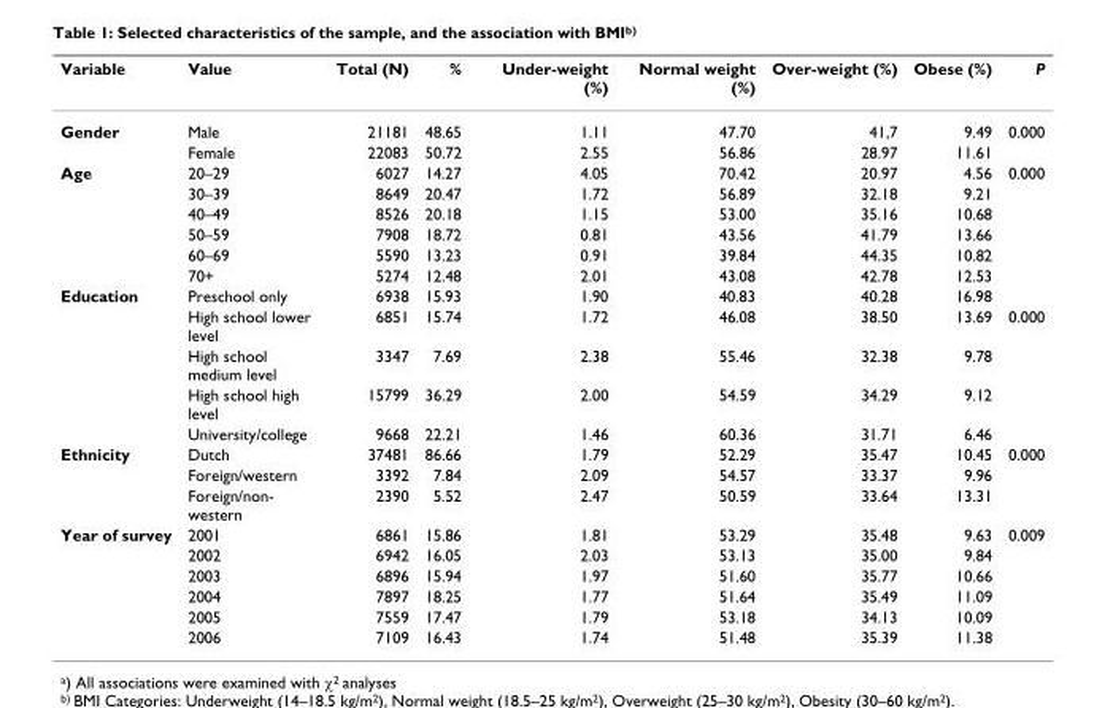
<table><thead><tr><td>Variable</td><td>Value</td><td>Total (N)</td><td>%</td><td>Under-weight (%)</td><td>Normal weight (%)</td><td>Over-weight (%)</td><td>Obese (%)</td><td>P</td></tr></thead><tbody><tr><td rowspan="2">Gender</td><td>Male</td><td>21181</td><td>48.65</td><td>1.11</td><td>47.70</td><td>41,7</td><td>9.49</td><td>0.000</td></tr><tr><td>Female</td><td>22083</td><td>50.72</td><td>2.55</td><td>56.86</td><td>28.97</td><td>11.61</td><td></td></tr><tr><td rowspan="6">Age</td><td>20–29</td><td>6027</td><td>14.27</td><td>4.05</td><td>70.42</td><td>20.97</td><td>4.56</td><td>0.000</td></tr><tr><td>30–39</td><td>8649</td><td>20.47</td><td>1.72</td><td>56.89</td><td>32.18</td><td>9.21</td><td></td></tr><tr><td>40–49</td><td>8526</td><td>20.18</td><td>1.15</td><td>53.00</td><td>35.16</td><td>10.68</td><td></td></tr><tr><td>50–59</td><td>7908</td><td>18.72</td><td>0.81</td><td>43.56</td><td>41.79</td><td>13.66</td><td></td></tr><tr><td>60–69</td><td>5590</td><td>13.23</td><td>0.91</td><td>39.84</td><td>44.35</td><td>10.82</td><td></td></tr><tr><td>70+</td><td>5274</td><td>12.48</td><td>2.01</td><td>43.08</td><td>42.78</td><td>12.53</td><td></td></tr><tr><td rowspan="5">Education</td><td>Preschool only</td><td>6938</td><td>15.93</td><td>1.90</td><td>40.83</td><td>40.28</td><td>16.98</td><td></td></tr><tr><td>High school lower level</td><td>6851</td><td>15.74</td><td>1.72</td><td>46.08</td><td>38.50</td><td>13.69</td><td>0.000</td></tr><tr><td>High school medium level</td><td>3347</td><td>7.69</td><td>2.38</td><td>55.46</td><td>32.38</td><td>9.78</td><td></td></tr><tr><td>High school high level</td><td>15799</td><td>36.29</td><td>2.00</td><td>54.59</td><td>34.29</td><td>9.12</td><td></td></tr><tr><td>University/college</td><td>9668</td><td>22.21</td><td>1.46</td><td>60.36</td><td>31.71</td><td>6.46</td><td></td></tr><tr><td rowspan="3">Ethnicity</td><td>Dutch</td><td>37481</td><td>86.66</td><td>1.79</td><td>52.29</td><td>35.47</td><td>10.45</td><td>0.000</td></tr><tr><td>Foreign/western</td><td>3392</td><td>7.84</td><td>2.09</td><td>54.57</td><td>33.37</td><td>9.96</td><td></td></tr><tr><td>Foreign/non- western</td><td>2390</td><td>5.52</td><td>2.47</td><td>50.59</td><td>33.64</td><td>13.31</td><td></td></tr><tr><td rowspan="6">Year of survey</td><td>2001</td><td>6861</td><td>15.86</td><td>1.81</td><td>53.29</td><td>35.48</td><td>9.63</td><td>0.009</td></tr><tr><td>2002</td><td>6942</td><td>16.05</td><td>2.03</td><td>53.13</td><td>35.00</td><td>9.84</td><td></td></tr><tr><td>2003</td><td>6896</td><td>15.94</td><td>1.97</td><td>51.60</td><td>35.77</td><td>10.66</td><td></td></tr><tr><td>2004</td><td>7897</td><td>18.25</td><td>1.77</td><td>51.64</td><td>35.49</td><td>11.09</td><td></td></tr><tr><td>2005</td><td>7559</td><td>17.47</td><td>1.79</td><td>53.18</td><td>34.13</td><td>10.09</td><td></td></tr><tr><td>2006</td><td>7109</td><td>16.43</td><td>1.74</td><td>51.48</td><td>35.39</td><td>11.38</td><td></td></tr></tbody></table>